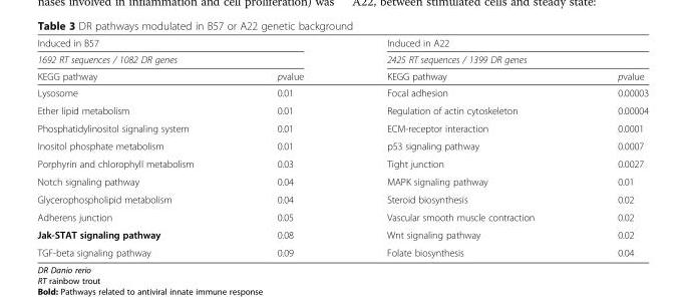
<table><thead><tr><td rowspan="2" colspan="2">Induced in B57 1692 RT sequences / 1082 DR genes</td><td rowspan="2" colspan="2">Induced in A22 2425 RT sequences / 1399 DR genes</td></tr><tr></tr><tr><td>KEGG pathway</td><td>pvalue</td><td>KEGG pathway</td><td>pvalue</td></tr></thead><tbody><tr><td>Lysosome</td><td>0.01</td><td>Focal adhesion</td><td>0.00003</td></tr><tr><td>Ether lipid metabolism</td><td>0.01</td><td>Regulation of actin cytoskeleton</td><td>0.00004</td></tr><tr><td>Phosphatidylinositol signaling system</td><td>0.01</td><td>ECM-receptor interaction</td><td>0.0001</td></tr><tr><td>Inositol phosphate metabolism</td><td>0.01</td><td>p53 signaling pathway</td><td>0.0007</td></tr><tr><td>Porphyrin and chlorophyll metabolism</td><td>0.03</td><td>Tight junction</td><td>0.0027</td></tr><tr><td>Notch signaling pathway</td><td>0.04</td><td>MAPK signaling pathway</td><td>0.01</td></tr><tr><td>Glycerophospholipid metabolism</td><td>0.04</td><td>Steroid biosynthesis</td><td>0.02</td></tr><tr><td>Adherens junction</td><td>0.05</td><td>Vascular smooth muscle contraction</td><td>0.02</td></tr><tr><td>Jak-STAT signaling pathway</td><td>0.08</td><td>Wnt signaling pathway</td><td>0.02</td></tr><tr><td>TGF-beta signaling pathway</td><td>0.09</td><td>Folate biosynthesis</td><td>0.04</td></tr></tbody></table>